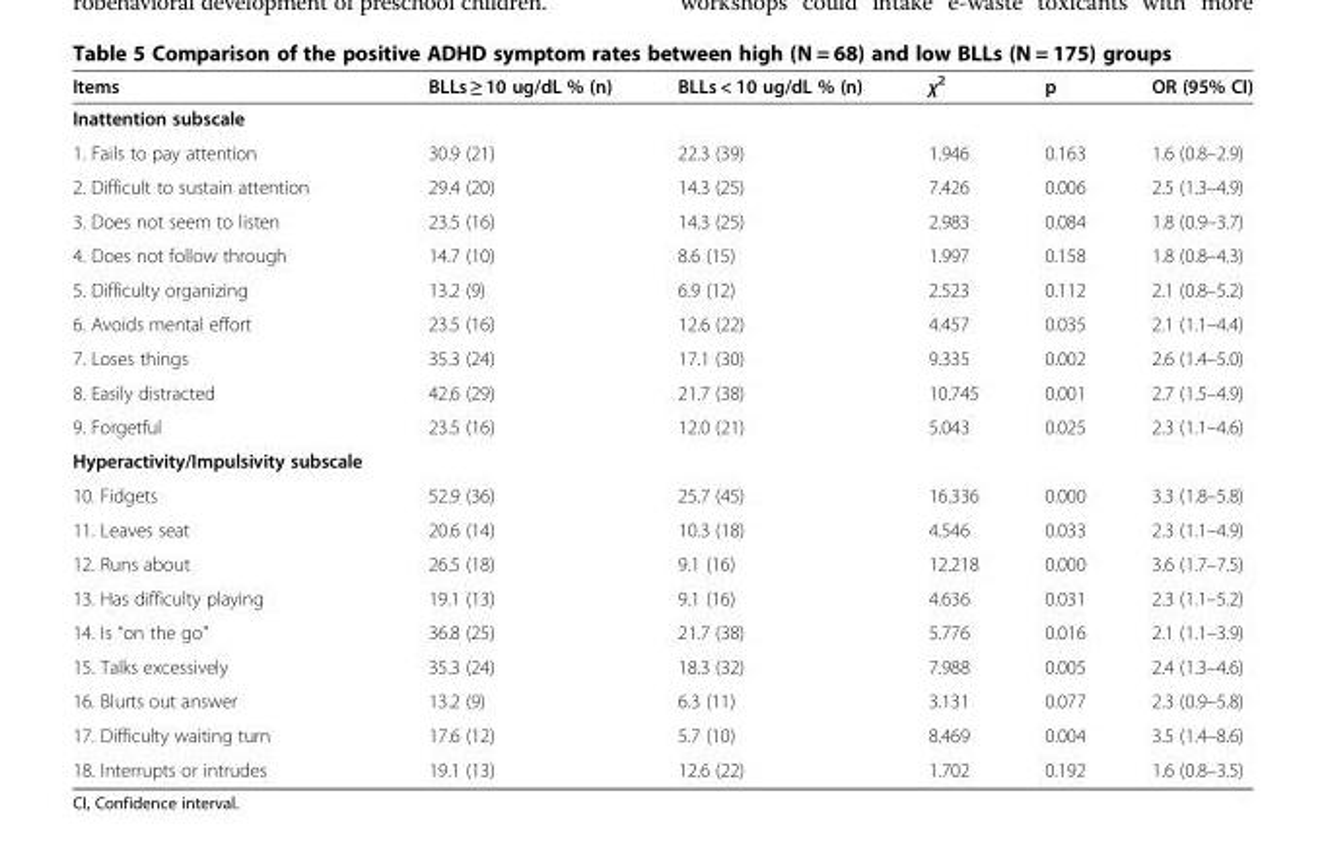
<table><thead><tr><td>Items</td><td>BLLs ≥ 10 ug/dL % (n)</td><td>BLLs &lt; 10 ug/dL % (n)</td><td>χ<sup>2</sup></td><td>p</td><td>OR (95% CI)</td></tr></thead><tbody><tr><td colspan="6">Inattention subscale</td></tr><tr><td>1. Fails to pay attention</td><td>30.9 (21)</td><td>22.3 (39)</td><td>1.946</td><td>0.163</td><td>1.6 (0.8–2.9)</td></tr><tr><td>2. Difficult to sustain attention</td><td>29.4 (20)</td><td>14.3 (25)</td><td>7.426</td><td>0.006</td><td>2.5 (1.3–4.9)</td></tr><tr><td>3. Does not seem to listen</td><td>23.5 (16)</td><td>14.3 (25)</td><td>2.983</td><td>0.084</td><td>1.8 (0.9–3.7)</td></tr><tr><td>4. Does not follow through</td><td>14.7 (10)</td><td>8.6 (15)</td><td>1.997</td><td>0.158</td><td>1.8 (0.8–4.3)</td></tr><tr><td>5. Difficulty organizing</td><td>13.2 (9)</td><td>6.9 (12)</td><td>2.523</td><td>0.112</td><td>2.1 (0.8–5.2)</td></tr><tr><td>6. Avoids mental effort</td><td>23.5 (16)</td><td>12.6 (22)</td><td>4.457</td><td>0.035</td><td>2.1 (1.1–4.4)</td></tr><tr><td>7. Loses things</td><td>35.3 (24)</td><td>17.1 (30)</td><td>9.335</td><td>0.002</td><td>2.6 (1.4–5.0)</td></tr><tr><td>8. Easily distracted</td><td>42.6 (29)</td><td>21.7 (38)</td><td>10.745</td><td>0.001</td><td>2.7 (1.5–4.9)</td></tr><tr><td>9. Forgetful</td><td>23.5 (16)</td><td>12.0 (21)</td><td>5.043</td><td>0.025</td><td>2.3 (1.1–4.6)</td></tr><tr><td colspan="6">Hyperactivity/Impulsivity subscale</td></tr><tr><td>10. Fidgets</td><td>52.9 (36)</td><td>25.7 (45)</td><td>16.336</td><td>0.000</td><td>3.3 (1.8–5.8)</td></tr><tr><td>11. Leaves seat</td><td>20.6 (14)</td><td>10.3 (18)</td><td>4.546</td><td>0.033</td><td>2.3 (1.1–4.9)</td></tr><tr><td>12. Runs about</td><td>26.5 (18)</td><td>9.1 (16)</td><td>12.218</td><td>0.000</td><td>3.6 (1.7–7.5)</td></tr><tr><td>13. Has difficulty playing</td><td>19.1 (13)</td><td>9.1 (16)</td><td>4.636</td><td>0.031</td><td>2.3 (1.1–5.2)</td></tr><tr><td>14. Is “on the go”</td><td>36.8 (25)</td><td>21.7 (38)</td><td>5.776</td><td>0.016</td><td>2.1 (1.1–3.9)</td></tr><tr><td>15. Talks excessively</td><td>35.3 (24)</td><td>18.3 (32)</td><td>7.988</td><td>0.005</td><td>2.4 (1.3–4.6)</td></tr><tr><td>16. Blurts out answer</td><td>13.2 (9)</td><td>6.3 (11)</td><td>3.131</td><td>0.077</td><td>2.3 (0.9–5.8)</td></tr><tr><td>17. Difficulty waiting turn</td><td>17.6 (12)</td><td>5.7 (10)</td><td>8.469</td><td>0.004</td><td>3.5 (1.4–8.6)</td></tr><tr><td>18. Interrupts or intrudes</td><td>19.1 (13)</td><td>12.6 (22)</td><td>1.702</td><td>0.192</td><td>1.6 (0.8–3.5)</td></tr></tbody></table>